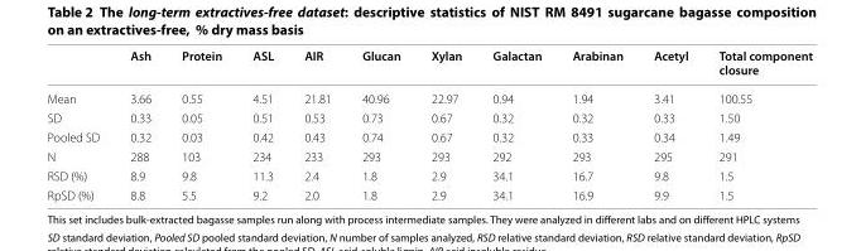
<table><thead><tr><td></td><td>Ash</td><td>Protein</td><td>ASL</td><td>AIR</td><td>Glucan</td><td>Xylan</td><td>Galactan</td><td>Arabinan</td><td>Acetyl</td><td>Total component closure</td></tr></thead><tbody><tr><td>Mean</td><td>3.66</td><td>0.55</td><td>4.51</td><td>21.81</td><td>40.96</td><td>22.97</td><td>0.94</td><td>1.94</td><td>3.41</td><td>100.55</td></tr><tr><td>SD</td><td>0.33</td><td>0.05</td><td>0.51</td><td>0.53</td><td>0.73</td><td>0.67</td><td>0.32</td><td>0.32</td><td>0.33</td><td>1.50</td></tr><tr><td>Pooled SD</td><td>0.32</td><td>0.03</td><td>0.42</td><td>0.43</td><td>0.74</td><td>0.67</td><td>0.32</td><td>0.33</td><td>0.34</td><td>1.49</td></tr><tr><td>N</td><td>288</td><td>103</td><td>234</td><td>233</td><td>293</td><td>293</td><td>292</td><td>293</td><td>295</td><td>291</td></tr><tr><td>RSD (%)</td><td>8.9</td><td>9.8</td><td>11.3</td><td>2.4</td><td>1.8</td><td>2.9</td><td>34.1</td><td>16.7</td><td>9.8</td><td>1.5</td></tr><tr><td>RpSD (%)</td><td>8.8</td><td>5.5</td><td>9.2</td><td>2.0</td><td>1.8</td><td>2.9</td><td>34.1</td><td>16.9</td><td>9.9</td><td>1.5</td></tr></tbody></table>